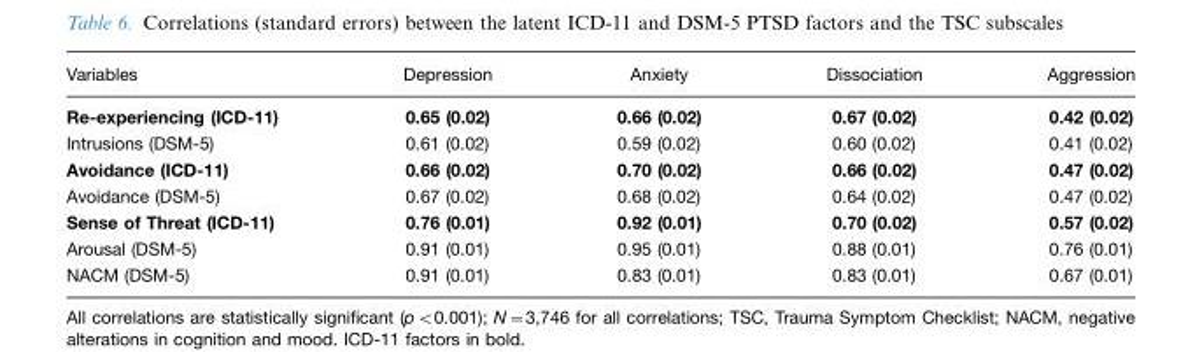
<table><thead><tr><td>Variables</td><td>Depression</td><td>Anxiety</td><td>Dissociation</td><td>Aggression</td></tr></thead><tbody><tr><td>Re-experiencing (ICD-11)</td><td>0.65 (0.02)</td><td>0.66 (0.02)</td><td>0.67 (0.02)</td><td>0.42 (0.02)</td></tr><tr><td>Intrusions (DSM-5)</td><td>0.61 (0.02)</td><td>0.59 (0.02)</td><td>0.60 (0.02)</td><td>0.41 (0.02)</td></tr><tr><td>Avoidance (ICD-11)</td><td>0.66 (0.02)</td><td>0.70 (0.02)</td><td>0.66 (0.02)</td><td>0.47 (0.02)</td></tr><tr><td>Avoidance (DSM-5)</td><td>0.67 (0.02)</td><td>0.68 (0.02)</td><td>0.64 (0.02)</td><td>0.47 (0.02)</td></tr><tr><td>Sense of Threat (ICD-11)</td><td>0.76 (0.01)</td><td>0.92 (0.01)</td><td>0.70 (0.02)</td><td>0.57 (0.02)</td></tr><tr><td>Arousal (DSM-5)</td><td>0.91 (0.01)</td><td>0.95 (0.01)</td><td>0.88 (0.01)</td><td>0.76 (0.01)</td></tr><tr><td>NACM (DSM-5)</td><td>0.91 (0.01)</td><td>0.83 (0.01)</td><td>0.83 (0.01)</td><td>0.67 (0.01)</td></tr></tbody></table>